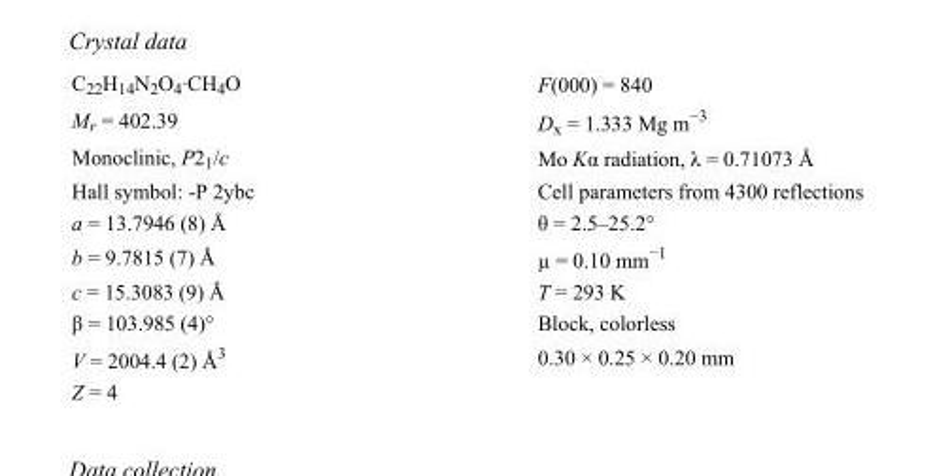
<table><tbody><tr><td>C<sub>22</sub>H<sub>14</sub>N<sub>2</sub>O<sub>4</sub>·CH<sub>4</sub>O</td><td>F(000) = 840</td></tr><tr><td>M<sub>r</sub> = 402.39</td><td>D<sub>x</sub> = 1.333 Mg m<sup>−3</sup></td></tr><tr><td>Monoclinic, P2<sub>1</sub>/c</td><td>Mo Kα radiation, λ = 0.71073 Å</td></tr><tr><td>Hall symbol: -P 2ybc</td><td>Cell parameters from 4300 reflections</td></tr><tr><td>a = 13.7946 (8) Å</td><td>θ = 2.5–25.2°</td></tr><tr><td>b = 9.7815 (7) Å</td><td>µ = 0.10 mm<sup>−1</sup></td></tr><tr><td>c = 15.3083 (9) Å</td><td>T = 293 K</td></tr><tr><td>β = 103.985 (4)°</td><td>Block, colorless</td></tr><tr><td>V = 2004.4 (2) Å<sup>3</sup></td><td>0.30 × 0.25 × 0.20 mm</td></tr><tr><td>Z = 4</td><td></td></tr></tbody></table>